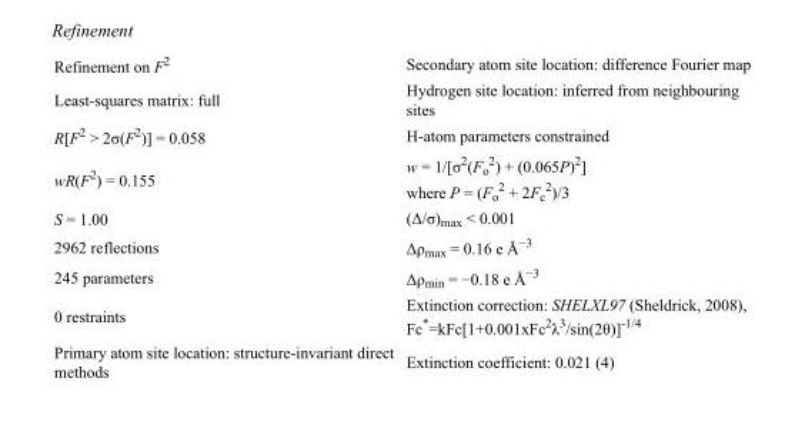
<table><tbody><tr><td>Refinement on F<sup>2</sup></td><td>Secondary atom site location: difference Fourier map</td></tr><tr><td>Least-squares matrix: full</td><td>Hydrogen site location: inferred from neighbouring sites</td></tr><tr><td>R[F<sup>2</sup> &gt; 2σ(F<sup>2</sup>)] = 0.058</td><td>H-atom parameters constrained</td></tr><tr><td>wR(F<sup>2</sup>) = 0.155</td><td>w = 1/[σ<sup>2</sup>(F<sub>o</sub> <sup>2</sup>) + (0.065P)<sup>2</sup>] where P = (F<sub>o</sub> <sup>2</sup> + 2F<sub>c</sub> <sup>2</sup>)/3</td></tr><tr><td>S = 1.00</td><td>(Δ/σ)<sub>max</sub> &lt; 0.001</td></tr><tr><td>2962 reflections</td><td>Δρ<sub>max</sub> = 0.16 e Å<sup>−3</sup></td></tr><tr><td>245 parameters</td><td>Δρ<sub>min</sub> = −0.18 e Å<sup>−3</sup></td></tr><tr><td>0 restraints</td><td>Extinction correction: SHELXL97 (Sheldrick, 2008), Fc*=kFc[1+0.001xFc<sup>2</sup>λ<sup>3</sup>/sin(2θ)]<sup>-1/4</sup></td></tr><tr><td>Primary atom site location: structure-invariant direct methods</td><td>Extinction coefficient: 0.021 (4)</td></tr></tbody></table>